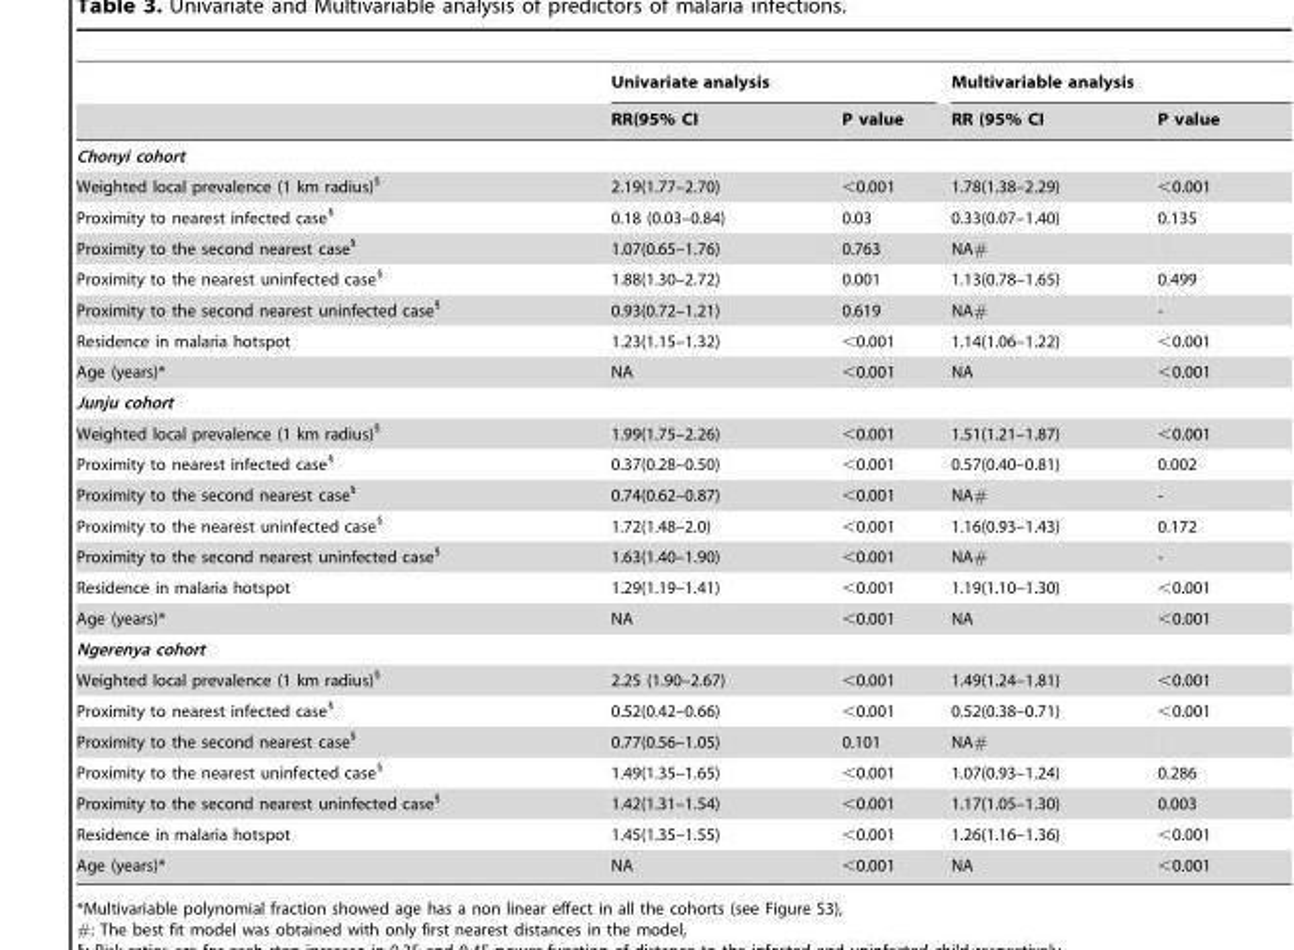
<table><thead><tr><td rowspan="2"></td><td colspan="2">Univariate analysis</td><td colspan="2">Multivariable analysis</td></tr><tr><td>RR(95% CI</td><td>P value</td><td>RR (95% CI</td><td>P value</td></tr></thead><tbody><tr><td colspan="5">Chonyi cohort</td></tr><tr><td>Weighted local prevalence (1 km radius)§</td><td>2.19(1.77–2.70)</td><td>&lt;0.001</td><td>1.78(1.38–2.29)</td><td>&lt;0.001</td></tr><tr><td>Proximity to nearest infected case§</td><td>0.18 (0.03–0.84)</td><td>0.03</td><td>0.33(0.07–1.40)</td><td>0.135</td></tr><tr><td>Proximity to the second nearest case§</td><td>1.07(0.65–1.76)</td><td>0.763</td><td>NA#</td><td></td></tr><tr><td>Proximity to the nearest uninfected case§</td><td>1.88(1.30–2.72)</td><td>0.001</td><td>1.13(0.78–1.65)</td><td>0.499</td></tr><tr><td>Proximity to the second nearest uninfected case§</td><td>0.93(0.72–1.21)</td><td>0.619</td><td>NA#</td><td>-</td></tr><tr><td>Residence in malaria hotspot</td><td>1.23(1.15–1.32)</td><td>&lt;0.001</td><td>1.14(1.06–1.22)</td><td>&lt;0.001</td></tr><tr><td>Age (years)*</td><td>NA</td><td>&lt;0.001</td><td>NA</td><td>&lt;0.001</td></tr><tr><td colspan="5">Junju cohort</td></tr><tr><td>Weighted local prevalence (1 km radius)§</td><td>1.99(1.75–2.26)</td><td>&lt;0.001</td><td>1.51(1.21–1.87)</td><td>&lt;0.001</td></tr><tr><td>Proximity to nearest infected case§</td><td>0.37(0.28–0.50)</td><td>&lt;0.001</td><td>0.57(0.40–0.81)</td><td>0.002</td></tr><tr><td>Proximity to the second nearest case§</td><td>0.74(0.62–0.87)</td><td>&lt;0.001</td><td>NA#</td><td>-</td></tr><tr><td>Proximity to the nearest uninfected case§</td><td>1.72(1.48–2.0)</td><td>&lt;0.001</td><td>1.16(0.93–1.43)</td><td>0.172</td></tr><tr><td>Proximity to the second nearest uninfected case§</td><td>1.63(1.40–1.90)</td><td>&lt;0.001</td><td>NA#</td><td>-</td></tr><tr><td>Residence in malaria hotspot</td><td>1.29(1.19–1.41)</td><td>&lt;0.001</td><td>1.19(1.10–1.30)</td><td>&lt;0.001</td></tr><tr><td>Age (years)*</td><td>NA</td><td>&lt;0.001</td><td>NA</td><td>&lt;0.001</td></tr><tr><td colspan="5">Ngerenya cohort</td></tr><tr><td>Weighted local prevalence (1 km radius)§</td><td>2.25 (1.90–2.67)</td><td>&lt;0.001</td><td>1.49(1.24–1.81)</td><td>&lt;0.001</td></tr><tr><td>Proximity to nearest infected case§</td><td>0.52(0.42–0.66)</td><td>&lt;0.001</td><td>0.52(0.38–0.71)</td><td>&lt;0.001</td></tr><tr><td>Proximity to the second nearest case§</td><td>0.77(0.56–1.05)</td><td>0.101</td><td>NA#</td><td></td></tr><tr><td>Proximity to the nearest uninfected case§</td><td>1.49(1.35–1.65)</td><td>&lt;0.001</td><td>1.07(0.93–1.24)</td><td>0.286</td></tr><tr><td>Proximity to the second nearest uninfected case§</td><td>1.42(1.31–1.54)</td><td>&lt;0.001</td><td>1.17(1.05–1.30)</td><td>0.003</td></tr><tr><td>Residence in malaria hotspot</td><td>1.45(1.35–1.55)</td><td>&lt;0.001</td><td>1.26(1.16–1.36)</td><td>&lt;0.001</td></tr><tr><td>Age (years)*</td><td>NA</td><td>&lt;0.001</td><td>NA</td><td>&lt;0.001</td></tr></tbody></table>